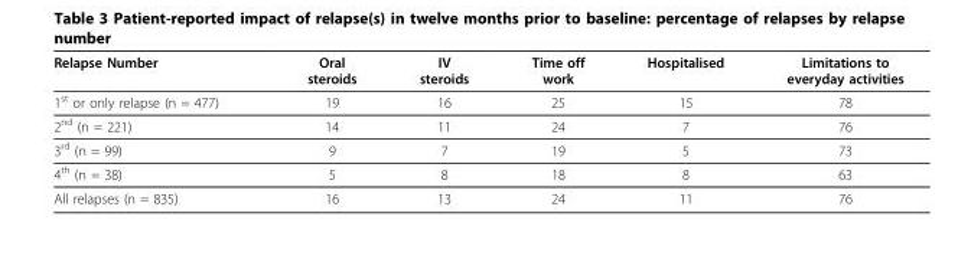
<table><thead><tr><td>Relapse Number</td><td>Oral steroids</td><td>IV steroids</td><td>Time off work</td><td>Hospitalised</td><td>Limitations to everyday activities</td></tr></thead><tbody><tr><td>1<sup>st</sup> or only relapse (n = 477)</td><td>19</td><td>16</td><td>25</td><td>15</td><td>78</td></tr><tr><td>2<sup>nd</sup> (n = 221)</td><td>14</td><td>11</td><td>24</td><td>7</td><td>76</td></tr><tr><td>3<sup>rd</sup> (n = 99)</td><td>9</td><td>7</td><td>19</td><td>5</td><td>73</td></tr><tr><td>4<sup>th</sup> (n = 38)</td><td>5</td><td>8</td><td>18</td><td>8</td><td>63</td></tr><tr><td>All relapses (n = 835)</td><td>16</td><td>13</td><td>24</td><td>11</td><td>76</td></tr></tbody></table>